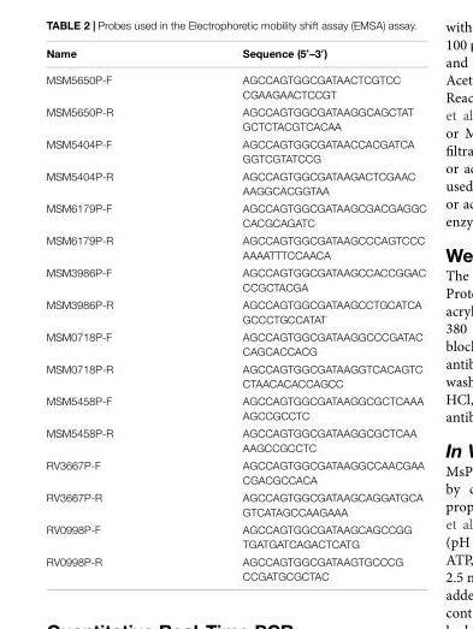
<table><thead><tr><td>Name</td><td>Sequence (5′–3′)</td></tr></thead><tbody><tr><td>MSM5650P-F</td><td>AGCCAGTGGCGATAACTCGTCC CGAAGAACTCCGT</td></tr><tr><td>MSM5650P-R</td><td>AGCCAGTGGCGATAAGGCAGCTAT GCTCTACGTCACAA</td></tr><tr><td>MSM5404P-F</td><td>AGCCAGTGGCGATAACCACGATCA GGTCGTATCCG</td></tr><tr><td>MSM5404P-R</td><td>AGCCAGTGGCGATAAGACTCGAAC AAGGCACGGTAA</td></tr><tr><td>MSM6179P-F</td><td>AGCCAGTGGCGATAAGCGACGAGGC CACGCAGATC</td></tr><tr><td>MSM6179P-R</td><td>AGCCAGTGGCGATAAGCCCAGTCCC AAAATTTCCAACA</td></tr><tr><td>MSM3986P-F</td><td>AGCCAGTGGCGATAAGCCACCGGAC CCGCTACGA</td></tr><tr><td>MSM3986P-R</td><td>AGCCAGTGGCGATAAGCCTGCATCA GCCCTGCCATAT</td></tr><tr><td>MSM0718P-F</td><td>AGCCAGTGGCGATAAGGCCCGATAC CAGCACCACG</td></tr><tr><td>MSM0718P-R</td><td>AGCCAGTGGCGATAAGGTCACAGTC CTAACACACCAGCC</td></tr><tr><td>MSM5458P-F</td><td>AGCCAGTGGCGATAAGGCGCTCAAA AGCCGCCTC</td></tr><tr><td>MSM5458P-R</td><td>AGCCAGTGGCGATAAGGCGCTCAA AAGCCGCCTC</td></tr><tr><td>RV3667P-F</td><td>AGCCAGTGGCGATAAGGCCAACGAA CGACGCCACA</td></tr><tr><td>RV3667P-R</td><td>AGCCAGTGGCGATAAGCAGGATGCA GTCATAGCCAAGAAA</td></tr><tr><td>RV0998P-F</td><td>AGCCAGTGGCGATAAGCAGCCGG TGATGATCAGACTCATG</td></tr><tr><td>RV0998P-R</td><td>AGCCAGTGGCGATAAGTGCCCG CCGATGCGCTAC</td></tr></tbody></table>